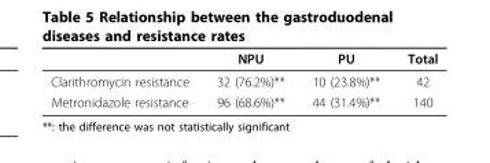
<table><thead><tr><td></td><td>NPU</td><td>PU</td><td>Total</td></tr></thead><tbody><tr><td>Clarithromycin resistance</td><td>32 (76.2%)**</td><td>10 (23.8%)**</td><td>42</td></tr><tr><td>Metronidazole resistance</td><td>96 (68.6%)**</td><td>44 (31.4%)**</td><td>140</td></tr></tbody></table>